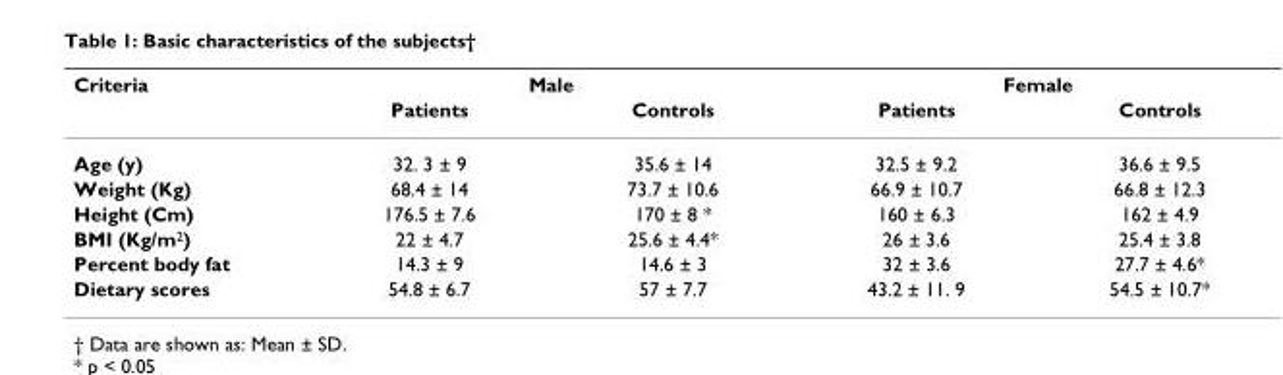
<table><thead><tr><td rowspan="2">Criteria</td><td colspan="2">Male</td><td colspan="2">Female</td></tr><tr><td>Patients</td><td>Controls</td><td>Patients</td><td>Controls</td></tr></thead><tbody><tr><td>Age (y)</td><td>32. 3 ± 9</td><td>35.6 ± 14</td><td>32.5 ± 9.2</td><td>36.6 ± 9.5</td></tr><tr><td>Weight (Kg)</td><td>68.4 ± 14</td><td>73.7 ± 10.6</td><td>66.9 ± 10.7</td><td>66.8 ± 12.3</td></tr><tr><td>Height (Cm)</td><td>176.5 ± 7.6</td><td>170 ± 8 *</td><td>160 ± 6.3</td><td>162 ± 4.9</td></tr><tr><td>BMI (Kg/m<sup>2</sup>)</td><td>22 ± 4.7</td><td>25.6 ± 4.4*</td><td>26 ± 3.6</td><td>25.4 ± 3.8</td></tr><tr><td>Percent body fat</td><td>14.3 ± 9</td><td>14.6 ± 3</td><td>32 ± 3.6</td><td>27.7 ± 4.6*</td></tr><tr><td>Dietary scores</td><td>54.8 ± 6.7</td><td>57 ± 7.7</td><td>43.2 ± 11. 9</td><td>54.5 ± 10.7*</td></tr></tbody></table>